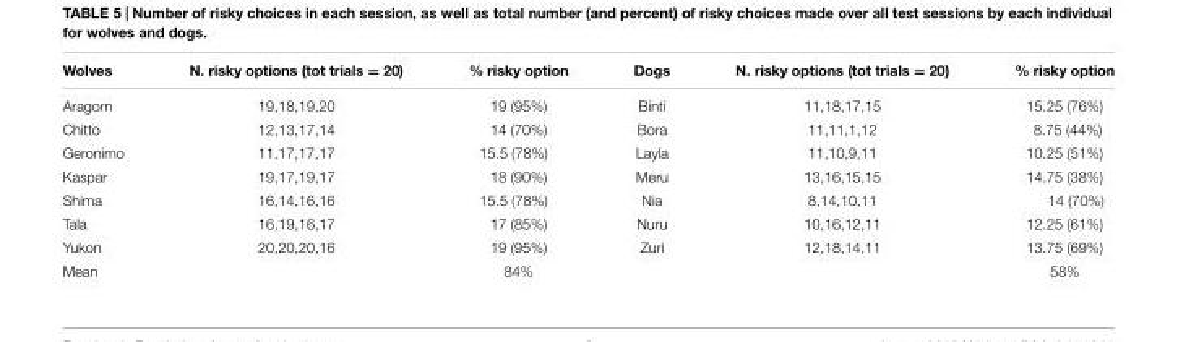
<table><thead><tr><td>Wolves</td><td>N. risky options (tot trials = 20)</td><td>% risky option</td><td>Dogs</td><td>N. risky options (tot trials = 20)</td><td>% risky option</td></tr></thead><tbody><tr><td>Aragorn</td><td>19,18,19,20</td><td>19 (95%)</td><td>Binti</td><td>11,18,17,15</td><td>15.25 (76%)</td></tr><tr><td>Chitto</td><td>12,13,17,14</td><td>14 (70%)</td><td>Bora</td><td>11,11,1,12</td><td>8.75 (44%)</td></tr><tr><td>Geronimo</td><td>11,17,17,17</td><td>15.5 (78%)</td><td>Layla</td><td>11,10,9,11</td><td>10.25 (51%)</td></tr><tr><td>Kaspar</td><td>19,17,19,17</td><td>18 (90%)</td><td>Meru</td><td>13,16,15,15</td><td>14.75 (38%)</td></tr><tr><td>Shima</td><td>16,14,16,16</td><td>15.5 (78%)</td><td>Nia</td><td>8,14,10,11</td><td>14 (70%)</td></tr><tr><td>Tala</td><td>16,19,16,17</td><td>17 (85%)</td><td>Nuru</td><td>10,16,12,11</td><td>12.25 (61%)</td></tr><tr><td>Yukon</td><td>20,20,20,16</td><td>19 (95%)</td><td>Zuri</td><td>12,18,14,11</td><td>13.75 (69%)</td></tr><tr><td>Mean</td><td></td><td>84%</td><td></td><td></td><td>58%</td></tr></tbody></table>